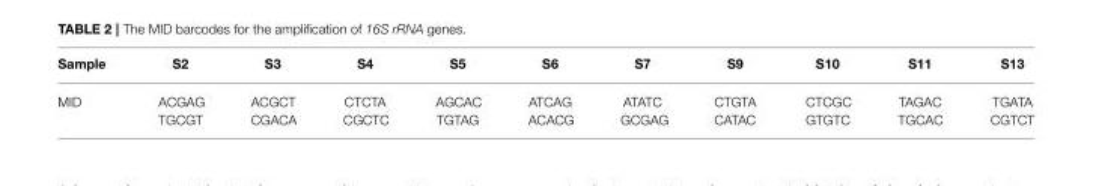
<table><thead><tr><td>Sample</td><td>S2</td><td>S3</td><td>S4</td><td>S5</td><td>S6</td><td>S7</td><td>S9</td><td>S10</td><td>S11</td><td>S13</td></tr></thead><tbody><tr><td>MID</td><td>ACGAG TGCGT</td><td>ACGCT CGACA</td><td>CTCTA CGCTC</td><td>AGCAC TGTAG</td><td>ATCAG ACACG</td><td>ATATC GCGAG</td><td>CTGTA CATAC</td><td>CTCGC GTGTC</td><td>TAGAC TGCAC</td><td>TGATA CGTCT</td></tr></tbody></table>